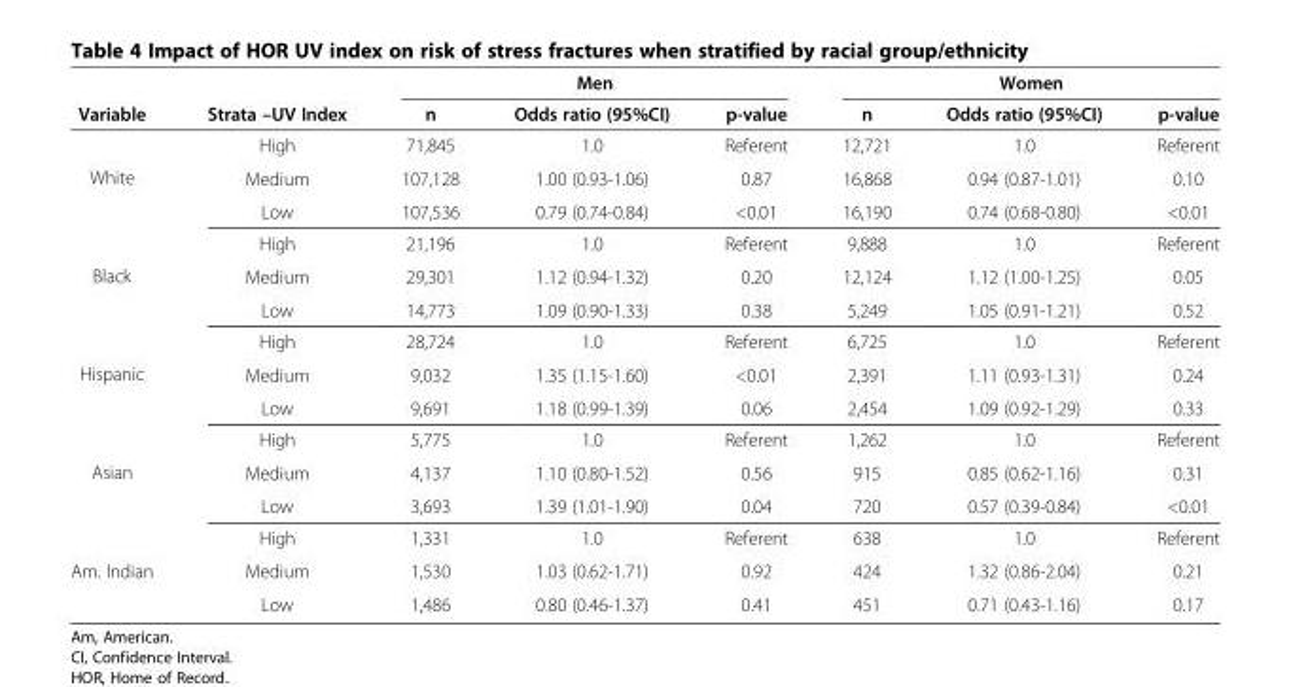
<table><thead><tr><td rowspan="2">Variable</td><td rowspan="2">Strata –UV Index</td><td colspan="3">Men</td><td colspan="3">Women</td></tr><tr><td>n</td><td>Odds ratio (95%CI)</td><td>p-value</td><td>n</td><td>Odds ratio (95%CI)</td><td>p-value</td></tr></thead><tbody><tr><td rowspan="3">White</td><td>High</td><td>71,845</td><td>1.0</td><td>Referent</td><td>12,721</td><td>1.0</td><td>Referent</td></tr><tr><td>Medium</td><td>107,128</td><td>1.00 (0.93-1.06)</td><td>0.87</td><td>16,868</td><td>0.94 (0.87-1.01)</td><td>0.10</td></tr><tr><td>Low</td><td>107,536</td><td>0.79 (0.74-0.84)</td><td>&lt;0.01</td><td>16,190</td><td>0.74 (0.68-0.80)</td><td>&lt;0.01</td></tr><tr><td rowspan="3">Black</td><td>High</td><td>21,196</td><td>1.0</td><td>Referent</td><td>9,888</td><td>1.0</td><td>Referent</td></tr><tr><td>Medium</td><td>29,301</td><td>1.12 (0.94-1.32)</td><td>0.20</td><td>12,124</td><td>1.12 (1.00-1.25)</td><td>0.05</td></tr><tr><td>Low</td><td>14,773</td><td>1.09 (0.90-1.33)</td><td>0.38</td><td>5,249</td><td>1.05 (0.91-1.21)</td><td>0.52</td></tr><tr><td rowspan="3">Hispanic</td><td>High</td><td>28,724</td><td>1.0</td><td>Referent</td><td>6,725</td><td>1.0</td><td>Referent</td></tr><tr><td>Medium</td><td>9,032</td><td>1.35 (1.15-1.60)</td><td>&lt;0.01</td><td>2,391</td><td>1.11 (0.93-1.31)</td><td>0.24</td></tr><tr><td>Low</td><td>9,691</td><td>1.18 (0.99-1.39)</td><td>0.06</td><td>2,454</td><td>1.09 (0.92-1.29)</td><td>0.33</td></tr><tr><td rowspan="3">Asian</td><td>High</td><td>5,775</td><td>1.0</td><td>Referent</td><td>1,262</td><td>1.0</td><td>Referent</td></tr><tr><td>Medium</td><td>4,137</td><td>1.10 (0.80-1.52)</td><td>0.56</td><td>915</td><td>0.85 (0.62-1.16)</td><td>0.31</td></tr><tr><td>Low</td><td>3,693</td><td>1.39 (1.01-1.90)</td><td>0.04</td><td>720</td><td>0.57 (0.39-0.84)</td><td>&lt;0.01</td></tr><tr><td rowspan="3">Am. Indian</td><td>High</td><td>1,331</td><td>1.0</td><td>Referent</td><td>638</td><td>1.0</td><td>Referent</td></tr><tr><td>Medium</td><td>1,530</td><td>1.03 (0.62-1.71)</td><td>0.92</td><td>424</td><td>1.32 (0.86-2.04)</td><td>0.21</td></tr><tr><td>Low</td><td>1,486</td><td>0.80 (0.46-1.37)</td><td>0.41</td><td>451</td><td>0.71 (0.43-1.16)</td><td>0.17</td></tr></tbody></table>